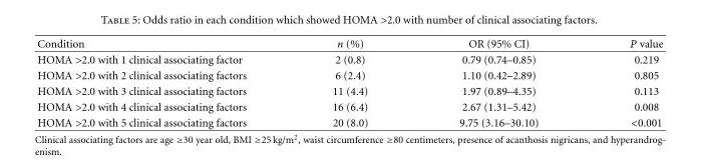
<table><thead><tr><td>Condition</td><td>n (%)</td><td>OR (95% CI)</td><td>P value</td></tr></thead><tbody><tr><td>HOMA &gt;2.0 with 1 clinical associating factor</td><td>2 (0.8)</td><td>0.79 (0.74–0.85)</td><td>0.219</td></tr><tr><td>HOMA &gt;2.0 with 2 clinical associating factors</td><td>6 (2.4)</td><td>1.10 (0.42–2.89)</td><td>0.805</td></tr><tr><td>HOMA &gt;2.0 with 3 clinical associating factors</td><td>11 (4.4)</td><td>1.97 (0.89–4.35)</td><td>0.113</td></tr><tr><td>HOMA &gt;2.0 with 4 clinical associating factors</td><td>16 (6.4)</td><td>2.67 (1.31–5.42)</td><td>0.008</td></tr><tr><td>HOMA &gt;2.0 with 5 clinical associating factors</td><td>20 (8.0)</td><td>9.75 (3.16–30.10)</td><td>&lt;0.001</td></tr></tbody></table>